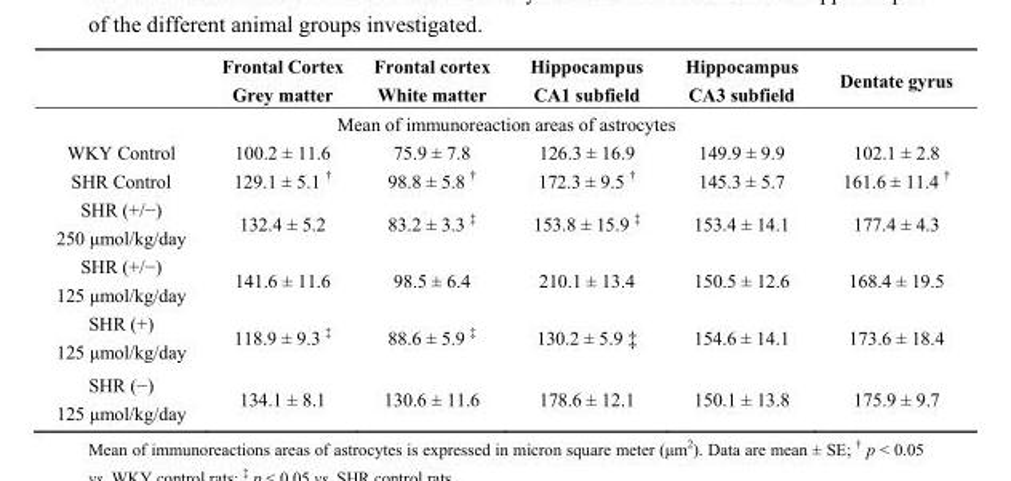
<table><thead><tr><td></td><td>Frontal Cortex Grey matter</td><td>Frontal cortex White matter</td><td>Hippocampus CA1 subfield</td><td>Hippocampus CA3 subfield</td><td>Dentate gyrus</td></tr><tr><td colspan="6">Mean of immunoreaction areas of astrocytes</td></tr></thead><tbody><tr><td>WKY Control</td><td>100.2 ± 11.6</td><td>75.9 ± 7.8</td><td>126.3 ± 16.9</td><td>149.9 ± 9.9</td><td>102.1 ± 2.8</td></tr><tr><td>SHR Control</td><td>129.1 ± 5.1 †</td><td>98.8 ± 5.8 †</td><td>172.3 ± 9.5 †</td><td>145.3 ± 5.7</td><td>161.6 ± 11.4 †</td></tr><tr><td>SHR (+/−) 250 μmol/kg/day</td><td>132.4 ± 5.2</td><td>83.2 ± 3.3 ‡</td><td>153.8 ± 15.9 ‡</td><td>153.4 ± 14.1</td><td>177.4 ± 4.3</td></tr><tr><td>SHR (+/−) 125 μmol/kg/day</td><td>141.6 ± 11.6</td><td>98.5 ± 6.4</td><td>210.1 ± 13.4</td><td>150.5 ± 12.6</td><td>168.4 ± 19.5</td></tr><tr><td>SHR (+) 125 μmol/kg/day</td><td>118.9 ± 9.3 ‡</td><td>88.6 ± 5.9 ‡</td><td>130.2 ± 5.9 ‡</td><td>154.6 ± 14.1</td><td>173.6 ± 18.4</td></tr><tr><td>SHR (−) 125 μmol/kg/day</td><td>134.1 ± 8.1</td><td>130.6 ± 11.6</td><td>178.6 ± 12.1</td><td>150.1 ± 13.8</td><td>175.9 ± 9.7</td></tr></tbody></table>